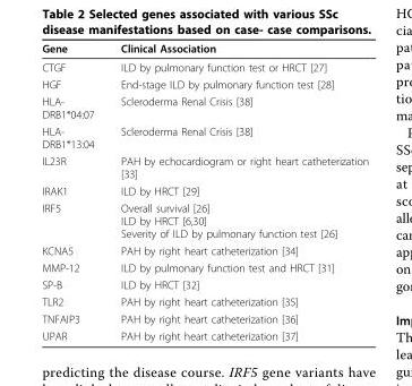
<table><thead><tr><td>Gene</td><td>Clinical Association</td></tr></thead><tbody><tr><td>CTGF</td><td>ILD by pulmonary function test or HRCT [27]</td></tr><tr><td>HGF</td><td>End-stage ILD by pulmonary function test [28]</td></tr><tr><td>HLA- DRB1*04:07</td><td>Scleroderma Renal Crisis [38]</td></tr><tr><td>HLA- DRB1*13:04</td><td>Scleroderma Renal Crisis [38]</td></tr><tr><td>IL23R</td><td>PAH by echocardiogram or right heart catheterization [33]</td></tr><tr><td>IRAK1</td><td>ILD by HRCT [29]</td></tr><tr><td>IRF5</td><td>Overall survival [26] ILD by HRCT [6,30] Severity of ILD by pulmonary function test [26]</td></tr><tr><td>KCNA5</td><td>PAH by right heart catheterization [34]</td></tr><tr><td>MMP-12</td><td>ILD by pulmonary function test and HRCT [31]</td></tr><tr><td>SP-B</td><td>ILD by HRCT [32]</td></tr><tr><td>TLR2</td><td>PAH by right heart catheterization [35]</td></tr><tr><td>TNFAIP3</td><td>PAH by right heart catheterization [36]</td></tr><tr><td>UPAR</td><td>PAH by right heart catheterization [37]</td></tr></tbody></table>